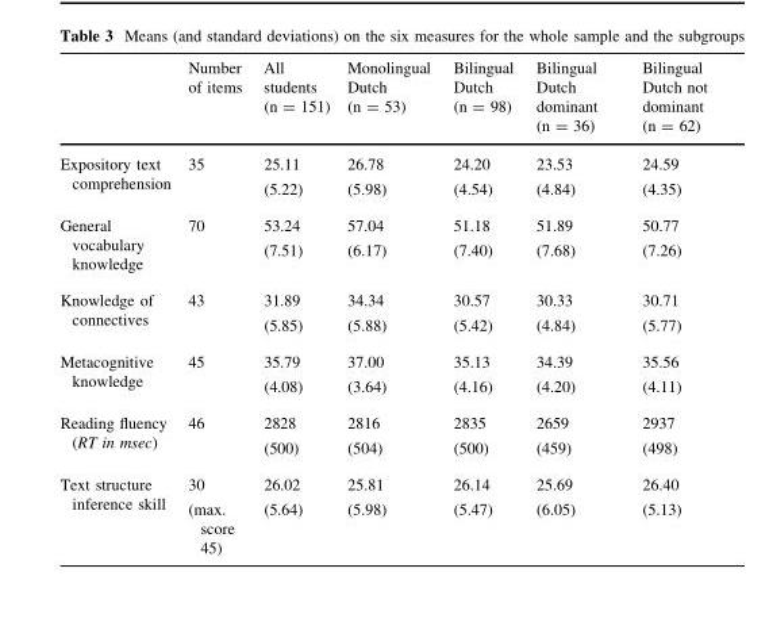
<table><thead><tr><td></td><td>Number of items</td><td>All students (n = 151)</td><td>Monolingual Dutch (n = 53)</td><td>Bilingual Dutch (n = 98)</td><td>Bilingual Dutch dominant (n = 36)</td><td>Bilingual Dutch not dominant (n = 62)</td></tr></thead><tbody><tr><td>Expository text comprehension</td><td>35</td><td>25.11 (5.22)</td><td>26.78 (5.98)</td><td>24.20 (4.54)</td><td>23.53 (4.84)</td><td>24.59 (4.35)</td></tr><tr><td>General vocabulary knowledge</td><td>70</td><td>53.24 (7.51)</td><td>57.04 (6.17)</td><td>51.18 (7.40)</td><td>51.89 (7.68)</td><td>50.77 (7.26)</td></tr><tr><td>Knowledge of connectives</td><td>43</td><td>31.89 (5.85)</td><td>34.34 (5.88)</td><td>30.57 (5.42)</td><td>30.33 (4.84)</td><td>30.71 (5.77)</td></tr><tr><td>Metacognitive knowledge</td><td>45</td><td>35.79 (4.08)</td><td>37.00 (3.64)</td><td>35.13 (4.16)</td><td>34.39 (4.20)</td><td>35.56 (4.11)</td></tr><tr><td>Reading fluency (RT in msec)</td><td>46</td><td>2828 (500)</td><td>2816 (504)</td><td>2835 (500)</td><td>2659 (459)</td><td>2937 (498)</td></tr><tr><td>Text structure inference skill</td><td>30 (max. score 45)</td><td>26.02 (5.64)</td><td>25.81 (5.98)</td><td>26.14 (5.47)</td><td>25.69 (6.05)</td><td>26.40 (5.13)</td></tr></tbody></table>